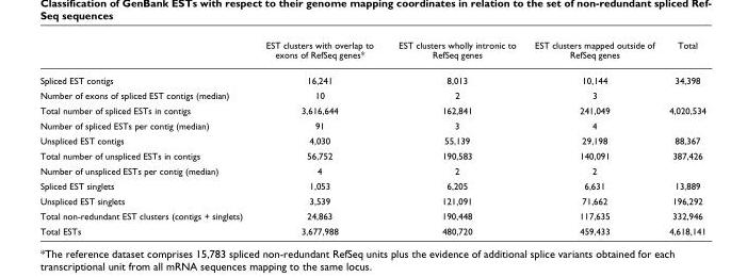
<table><thead><tr><td></td><td>EST clusters with overlap to exons of RefSeq genes*</td><td>EST clusters wholly intronic to RefSeq genes</td><td>EST clusters mapped outside of RefSeq genes</td><td>Total</td></tr></thead><tbody><tr><td>Spliced EST contigs</td><td>16,241</td><td>8,013</td><td>10,144</td><td>34,398</td></tr><tr><td>Number of exons of spliced EST contigs (median)</td><td>10</td><td>2</td><td>3</td><td></td></tr><tr><td>Total number of spliced ESTs in contigs</td><td>3,616,644</td><td>162,841</td><td>241,049</td><td>4,020,534</td></tr><tr><td>Number of spliced ESTs per contig (median)</td><td>91</td><td>3</td><td>4</td><td></td></tr><tr><td>Unspliced EST contigs</td><td>4,030</td><td>55,139</td><td>29,198</td><td>88,367</td></tr><tr><td>Total number of unspliced ESTs in contigs</td><td>56,752</td><td>190,583</td><td>140,091</td><td>387,426</td></tr><tr><td>Number of unspliced ESTs per contig (median)</td><td>4</td><td>2</td><td>2</td><td></td></tr><tr><td>Spliced EST singlets</td><td>1,053</td><td>6,205</td><td>6,631</td><td>13,889</td></tr><tr><td>Unspliced EST singlets</td><td>3,539</td><td>121,091</td><td>71,662</td><td>196,292</td></tr><tr><td>Total non-redundant EST clusters (contigs + singlets)</td><td>24,863</td><td>190,448</td><td>117,635</td><td>332,946</td></tr><tr><td>Total ESTs</td><td>3,677,988</td><td>480,720</td><td>459,433</td><td>4,618,141</td></tr></tbody></table>